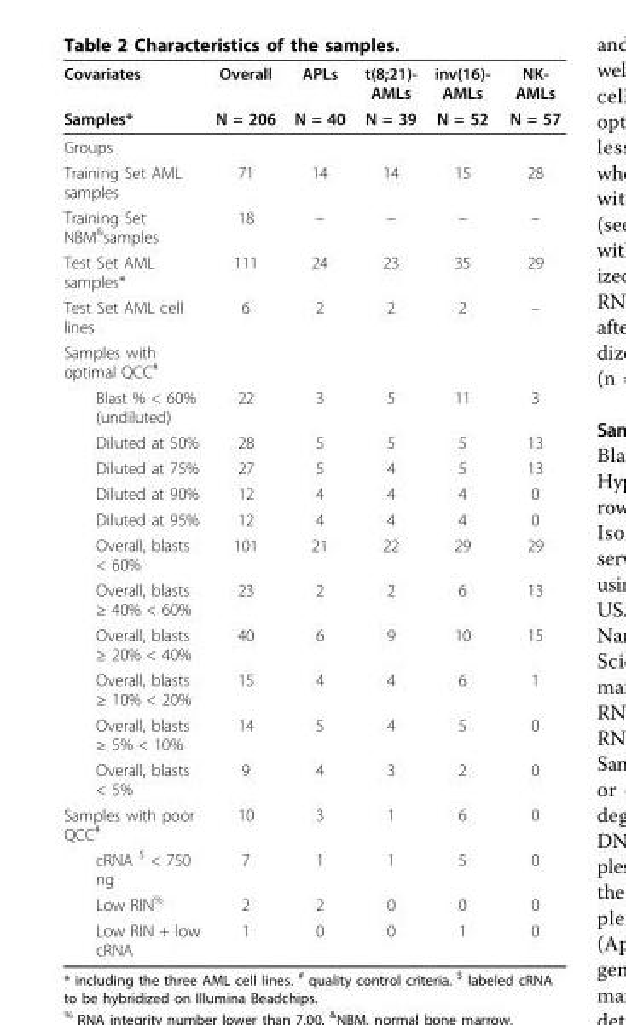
<table><thead><tr><td rowspan="2">Covariates Samples*</td><td rowspan="2">Overall N = 206</td><td rowspan="2">APLs N = 40</td><td rowspan="2">t(8;21)- AMLs N = 39</td><td rowspan="2">inv(16)- AMLs N = 52</td><td rowspan="2">NK- AMLs N = 57</td></tr><tr></tr></thead><tbody><tr><td colspan="6">Groups</td></tr><tr><td>Training Set AML samples</td><td>71</td><td>14</td><td>14</td><td>15</td><td>28</td></tr><tr><td>Training Set NBM<sup>&amp;</sup>samples</td><td>18</td><td>–</td><td>–</td><td>–</td><td>–</td></tr><tr><td>Test Set AML samples*</td><td>111</td><td>24</td><td>23</td><td>35</td><td>29</td></tr><tr><td>Test Set AML cell lines</td><td>6</td><td>2</td><td>2</td><td>2</td><td>–</td></tr><tr><td colspan="6">Samples with optimal QCC<sup>#</sup></td></tr><tr><td>Blast % &lt; 60% (undiluted)</td><td>22</td><td>3</td><td>5</td><td>11</td><td>3</td></tr><tr><td>Diluted at 50%</td><td>28</td><td>5</td><td>5</td><td>5</td><td>13</td></tr><tr><td>Diluted at 75%</td><td>27</td><td>5</td><td>4</td><td>5</td><td>13</td></tr><tr><td>Diluted at 90%</td><td>12</td><td>4</td><td>4</td><td>4</td><td>0</td></tr><tr><td>Diluted at 95%</td><td>12</td><td>4</td><td>4</td><td>4</td><td>0</td></tr><tr><td>Overall, blasts &lt; 60%</td><td>101</td><td>21</td><td>22</td><td>29</td><td>29</td></tr><tr><td>Overall, blasts ≥ 40% &lt; 60%</td><td>23</td><td>2</td><td>2</td><td>6</td><td>13</td></tr><tr><td>Overall, blasts ≥ 20% &lt; 40%</td><td>40</td><td>6</td><td>9</td><td>10</td><td>15</td></tr><tr><td>Overall, blasts ≥ 10% &lt; 20%</td><td>15</td><td>4</td><td>4</td><td>6</td><td>1</td></tr><tr><td>Overall, blasts ≥ 5% &lt; 10%</td><td>14</td><td>5</td><td>4</td><td>5</td><td>0</td></tr><tr><td>Overall, blasts &lt; 5%</td><td>9</td><td>4</td><td>3</td><td>2</td><td>0</td></tr><tr><td>Samples with poor QCC<sup>#</sup></td><td>10</td><td>3</td><td>1</td><td>6</td><td>0</td></tr><tr><td>cRNA <sup>$</sup> &lt; 750 ng</td><td>7</td><td>1</td><td>1</td><td>5</td><td>0</td></tr><tr><td>Low RIN<sup>%</sup></td><td>2</td><td>2</td><td>0</td><td>0</td><td>0</td></tr><tr><td>Low RIN + low cRNA</td><td>1</td><td>0</td><td>0</td><td>1</td><td>0</td></tr></tbody></table>